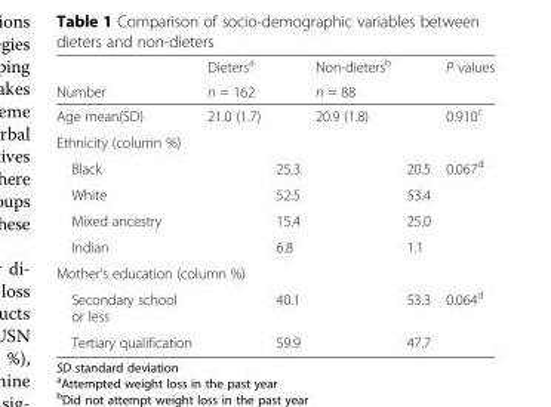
<table><thead><tr><td rowspan="2">Number</td><td rowspan="2">Dieters<sup>a</sup> n = 162</td><td rowspan="2"></td><td rowspan="2">Non-dieters<sup>b</sup> n = 88</td><td rowspan="2"></td><td rowspan="2">P values</td></tr><tr></tr></thead><tbody><tr><td>Age mean(SD)</td><td>21.0 (1.7)</td><td></td><td>20.9 (1.8)</td><td></td><td>0.910<sup>c</sup></td></tr><tr><td colspan="6">Ethnicity (column %)</td></tr><tr><td>Black</td><td></td><td>25.3</td><td></td><td>20.5</td><td>0.067<sup>d</sup></td></tr><tr><td>White</td><td></td><td>52.5</td><td></td><td>53.4</td><td></td></tr><tr><td>Mixed ancestry</td><td></td><td>15.4</td><td></td><td>25.0</td><td></td></tr><tr><td>Indian</td><td></td><td>6.8</td><td></td><td>1.1</td><td></td></tr><tr><td colspan="6">Mother’s education (column %)</td></tr><tr><td>Secondary school or less</td><td></td><td>40.1</td><td></td><td>53.3</td><td>0.064<sup>d</sup></td></tr><tr><td>Tertiary qualification</td><td></td><td>59.9</td><td></td><td>47.7</td><td></td></tr></tbody></table>